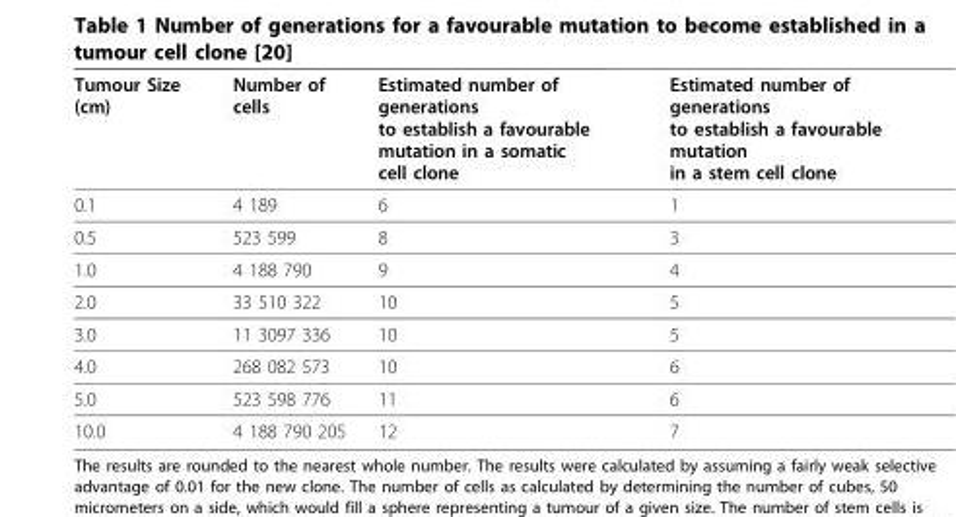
<table><thead><tr><td>Tumour Size (cm)</td><td>Number of cells</td><td>Estimated number of generations to establish a favourable mutation in a somatic cell clone</td><td>Estimated number of generations to establish a favourable mutation in a stem cell clone</td></tr></thead><tbody><tr><td>0.1</td><td>4 189</td><td>6</td><td>1</td></tr><tr><td>0.5</td><td>523 599</td><td>8</td><td>3</td></tr><tr><td>1.0</td><td>4 188 790</td><td>9</td><td>4</td></tr><tr><td>2.0</td><td>33 510 322</td><td>10</td><td>5</td></tr><tr><td>3.0</td><td>11 3097 336</td><td>10</td><td>5</td></tr><tr><td>4.0</td><td>268 082 573</td><td>10</td><td>6</td></tr><tr><td>5.0</td><td>523 598 776</td><td>11</td><td>6</td></tr><tr><td>10.0</td><td>4 188 790 205</td><td>12</td><td>7</td></tr></tbody></table>